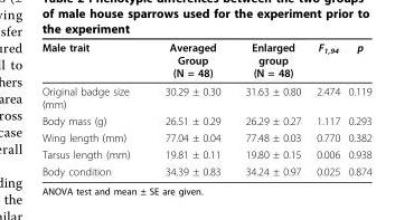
<table><thead><tr><td>Male trait</td><td>Averaged Group (N = 48)</td><td>Enlarged group (N = 48)</td><td>F<sub>1,94</sub></td><td>p</td></tr></thead><tbody><tr><td>Original badge size (mm)</td><td>30.29 ± 0.30</td><td>31.63 ± 0.80</td><td>2.474</td><td>0.119</td></tr><tr><td>Body mass (g)</td><td>26.51 ± 0.29</td><td>26.29 ± 0.27</td><td>1.117</td><td>0.293</td></tr><tr><td>Wing length (mm)</td><td>77.04 ± 0.04</td><td>77.48 ± 0.03</td><td>0.770</td><td>0.382</td></tr><tr><td>Tarsus length (mm)</td><td>19.81 ± 0.11</td><td>19.80 ± 0.15</td><td>0.006</td><td>0.938</td></tr><tr><td>Body condition</td><td>34.39 ± 0.83</td><td>34.24 ± 0.97</td><td>0.025</td><td>0.874</td></tr></tbody></table>